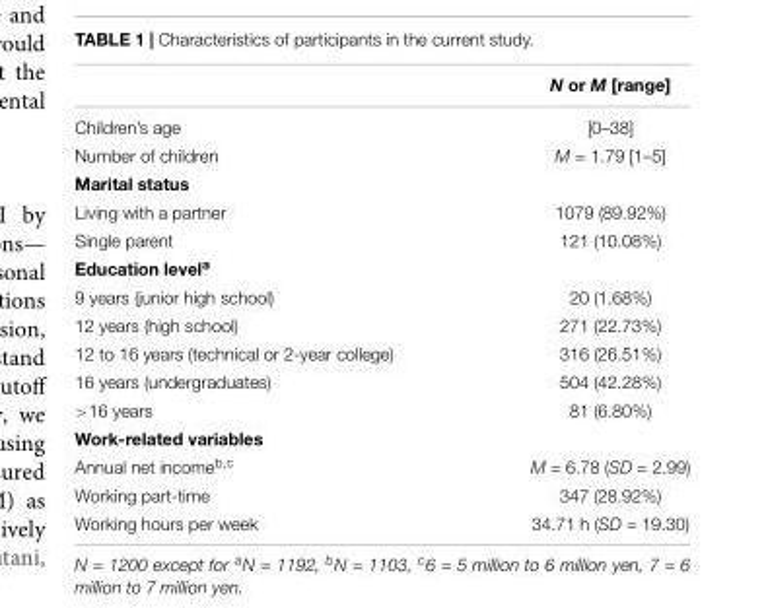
<table><thead><tr><td></td><td>N or M [range]</td></tr></thead><tbody><tr><td>Children’s age</td><td>[0–38]</td></tr><tr><td>Number of children</td><td>M = 1.79 [1–5]</td></tr><tr><td colspan="2">Marital status</td></tr><tr><td>Living with a partner</td><td>1079 (89.92%)</td></tr><tr><td>Single parent</td><td>121 (10.08%)</td></tr><tr><td colspan="2">Education level<sup>a</sup></td></tr><tr><td>9 years (junior high school)</td><td>20 (1.68%)</td></tr><tr><td>12 years (high school)</td><td>271 (22.73%)</td></tr><tr><td>12 to 16 years (technical or 2-year college)</td><td>316 (26.51%)</td></tr><tr><td>16 years (undergraduates)</td><td>504 (42.28%)</td></tr><tr><td>&gt;16 years</td><td>81 (6.80%)</td></tr><tr><td colspan="2">Work-related variables</td></tr><tr><td>Annual net income<sup>b,c</sup></td><td>M = 6.78 (SD = 2.99)</td></tr><tr><td>Working part-time</td><td>347 (28.92%)</td></tr><tr><td>Working hours per week</td><td>34.71 h (SD = 19.30)</td></tr></tbody></table>